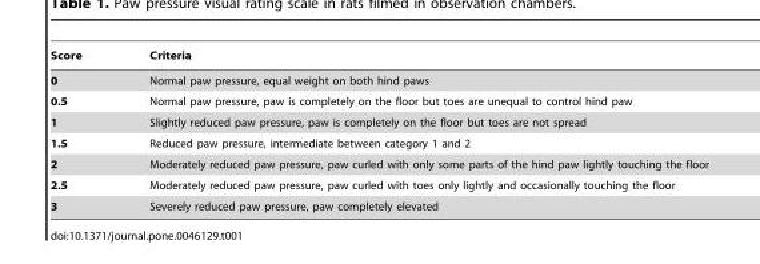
<table><thead><tr><td>Score</td><td>Criteria</td></tr></thead><tbody><tr><td>0</td><td>Normal paw pressure, equal weight on both hind paws</td></tr><tr><td>0.5</td><td>Normal paw pressure, paw is completely on the floor but toes are unequal to control hind paw</td></tr><tr><td>1</td><td>Slightly reduced paw pressure, paw is completely on the floor but toes are not spread</td></tr><tr><td>1.5</td><td>Reduced paw pressure, intermediate between category 1 and 2</td></tr><tr><td>2</td><td>Moderately reduced paw pressure, paw curled with only some parts of the hind paw lightly touching the floor</td></tr><tr><td>2.5</td><td>Moderately reduced paw pressure, paw curled with toes only lightly and occasionally touching the floor</td></tr><tr><td>3</td><td>Severely reduced paw pressure, paw completely elevated</td></tr></tbody></table>